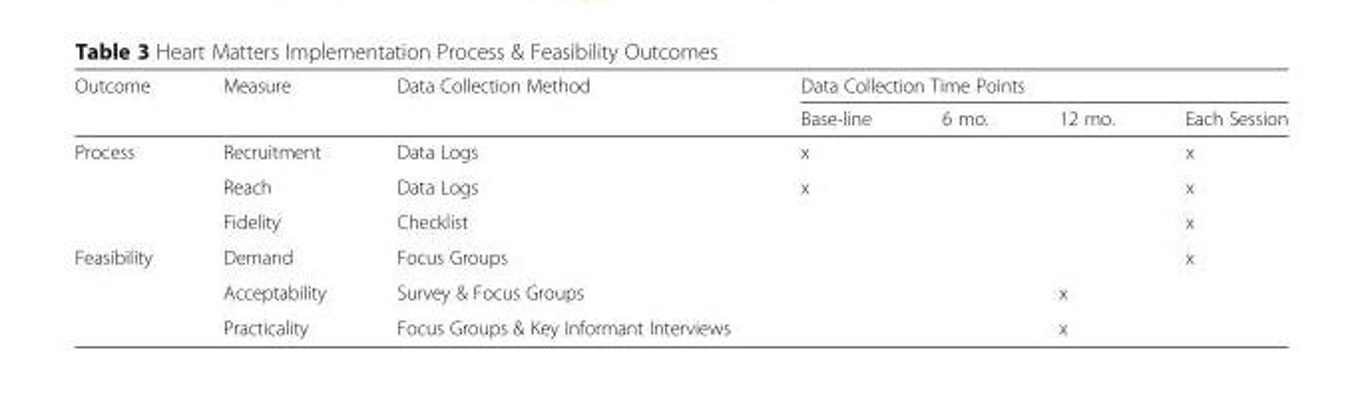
<table><thead><tr><td rowspan="2">Outcome</td><td rowspan="2">Measure</td><td rowspan="2">Data Collection Method</td><td colspan="4">Data Collection Time Points</td></tr><tr><td>Base-line</td><td>6 mo.</td><td>12 mo.</td><td>Each Session</td></tr></thead><tbody><tr><td rowspan="3">Process</td><td>Recruitment</td><td>Data Logs</td><td>x</td><td></td><td></td><td>x</td></tr><tr><td>Reach</td><td>Data Logs</td><td>x</td><td></td><td></td><td>x</td></tr><tr><td>Fidelity</td><td>Checklist</td><td></td><td></td><td></td><td>x</td></tr><tr><td rowspan="3">Feasibility</td><td>Demand</td><td>Focus Groups</td><td></td><td></td><td></td><td>x</td></tr><tr><td>Acceptability</td><td>Survey &amp; Focus Groups</td><td></td><td></td><td>x</td><td></td></tr><tr><td>Practicality</td><td>Focus Groups &amp; Key Informant Interviews</td><td></td><td></td><td>x</td><td></td></tr></tbody></table>